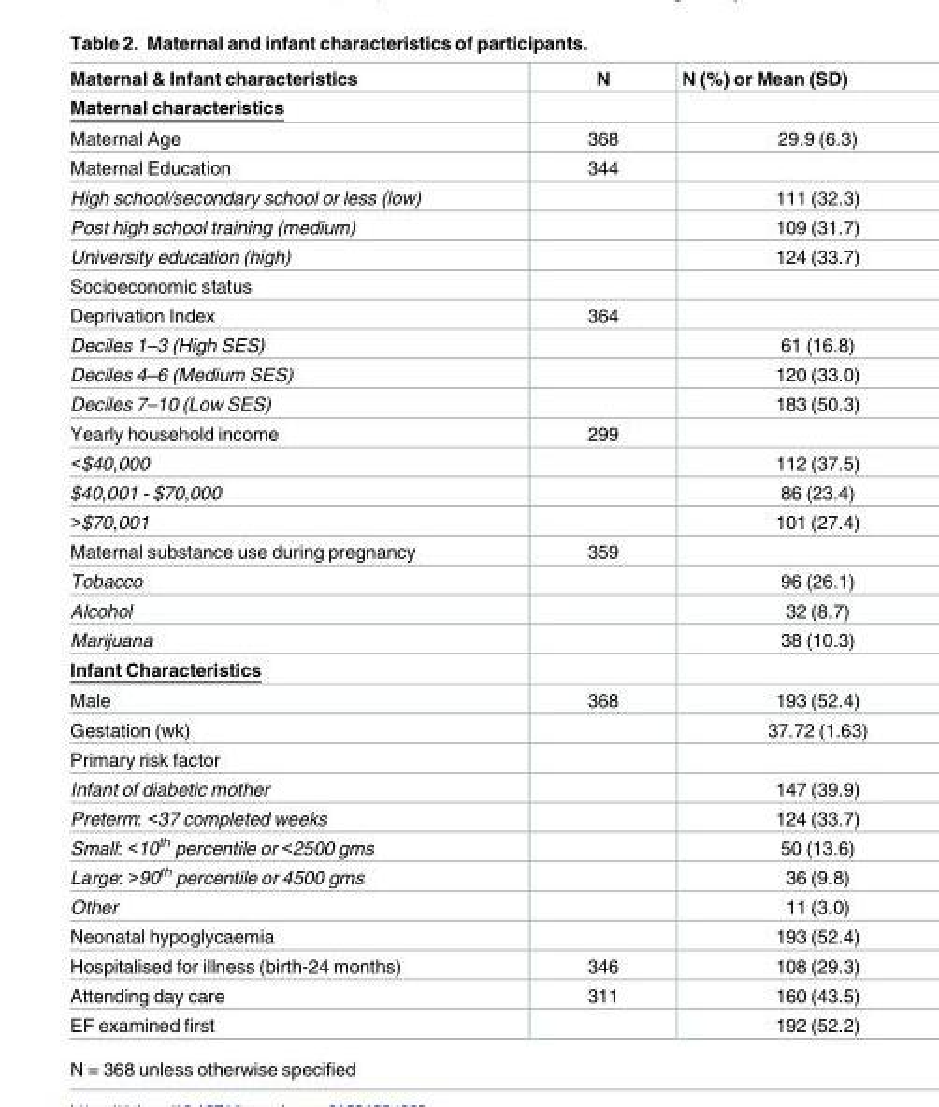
<table><thead><tr><td>Maternal &amp; Infant characteristics</td><td>N</td><td>N (%) or Mean (SD)</td></tr></thead><tbody><tr><td colspan="3">Maternal characteristics</td></tr><tr><td>Maternal Age</td><td>368</td><td>29.9 (6.3)</td></tr><tr><td>Maternal Education</td><td>344</td><td></td></tr><tr><td>High school/secondary school or less (low)</td><td></td><td>111 (32.3)</td></tr><tr><td>Post high school training (medium)</td><td></td><td>109 (31.7)</td></tr><tr><td>University education (high)</td><td></td><td>124 (33.7)</td></tr><tr><td colspan="3">Socioeconomic status</td></tr><tr><td>Deprivation Index</td><td>364</td><td></td></tr><tr><td>Deciles 1–3 (High SES)</td><td></td><td>61 (16.8)</td></tr><tr><td>Deciles 4–6 (Medium SES)</td><td></td><td>120 (33.0)</td></tr><tr><td>Deciles 7–10 (Low SES)</td><td></td><td>183 (50.3)</td></tr><tr><td>Yearly household income</td><td>299</td><td></td></tr><tr><td>&lt;$40,000</td><td></td><td>112 (37.5)</td></tr><tr><td>$40,001 - $70,000</td><td></td><td>86 (23.4)</td></tr><tr><td>&gt;$70,001</td><td></td><td>101 (27.4)</td></tr><tr><td>Maternal substance use during pregnancy</td><td>359</td><td></td></tr><tr><td>Tobacco</td><td></td><td>96 (26.1)</td></tr><tr><td>Alcohol</td><td></td><td>32 (8.7)</td></tr><tr><td>Marijuana</td><td></td><td>38 (10.3)</td></tr><tr><td colspan="3">Infant Characteristics</td></tr><tr><td>Male</td><td>368</td><td>193 (52.4)</td></tr><tr><td>Gestation (wk)</td><td></td><td>37.72 (1.63)</td></tr><tr><td colspan="3">Primary risk factor</td></tr><tr><td>Infant of diabetic mother</td><td></td><td>147 (39.9)</td></tr><tr><td>Preterm: &lt;37 completed weeks</td><td></td><td>124 (33.7)</td></tr><tr><td>Small: &lt;10<sup>th</sup> percentile or &lt;2500 gms</td><td></td><td>50 (13.6)</td></tr><tr><td>Large: &gt;90<sup>th</sup> percentile or 4500 gms</td><td></td><td>36 (9.8)</td></tr><tr><td>Other</td><td></td><td>11 (3.0)</td></tr><tr><td>Neonatal hypoglycaemia</td><td></td><td>193 (52.4)</td></tr><tr><td>Hospitalised for illness (birth-24 months)</td><td>346</td><td>108 (29.3)</td></tr><tr><td>Attending day care</td><td>311</td><td>160 (43.5)</td></tr><tr><td>EF examined first</td><td></td><td>192 (52.2)</td></tr></tbody></table>